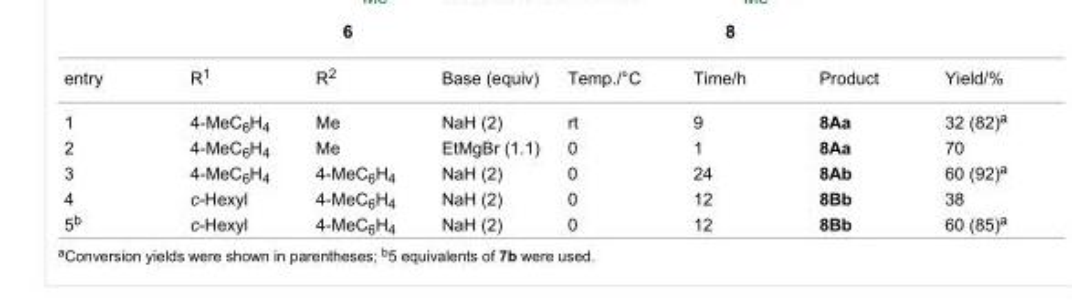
<table><tbody><tr><td>entry</td><td>R<sup>1</sup></td><td>R<sup>2</sup></td><td>Base (equiv)</td><td>Temp./°C</td><td>Time/h</td><td>Product</td><td>Yield/%</td></tr><tr><td>1</td><td>4-MeC<sub>6</sub>H<sub>4</sub></td><td>Me</td><td>NaH (2)</td><td>rt</td><td>9</td><td>8Aa</td><td>32 (82)<sup>a</sup></td></tr><tr><td>2</td><td>4-MeC<sub>6</sub>H<sub>4</sub></td><td>Me</td><td>EtMgBr (1.1)</td><td>0</td><td>1</td><td>8Aa</td><td>70</td></tr><tr><td>3</td><td>4-MeC<sub>6</sub>H<sub>4</sub></td><td>4-MeC<sub>6</sub>H<sub>4</sub></td><td>NaH (2)</td><td>0</td><td>24</td><td>8Ab</td><td>60 (92)<sup>a</sup></td></tr><tr><td>4</td><td>c-Hexyl</td><td>4-MeC<sub>6</sub>H<sub>4</sub></td><td>NaH (2)</td><td>0</td><td>12</td><td>8Bb</td><td>38</td></tr><tr><td>5<sup>b</sup></td><td>c-Hexyl</td><td>4-MeC<sub>6</sub>H<sub>4</sub></td><td>NaH (2)</td><td>0</td><td>12</td><td>8Bb</td><td>60 (85)<sup>a</sup></td></tr></tbody></table>